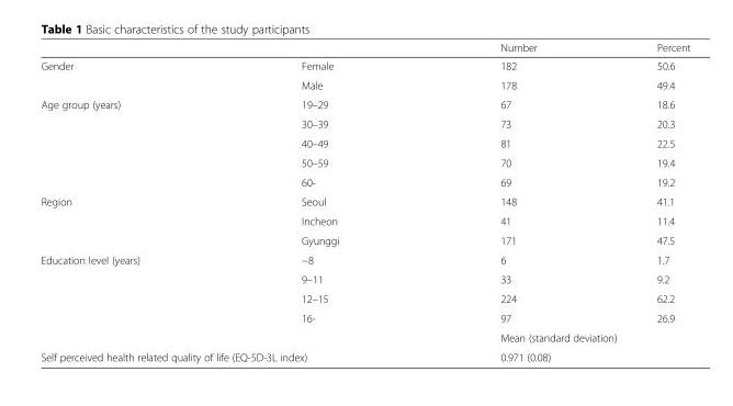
<table><thead><tr><td></td><td></td><td>Number</td><td>Percent</td></tr></thead><tbody><tr><td rowspan="2">Gender</td><td>Female</td><td>182</td><td>50.6</td></tr><tr><td>Male</td><td>178</td><td>49.4</td></tr><tr><td rowspan="5">Age group (years)</td><td>19–29</td><td>67</td><td>18.6</td></tr><tr><td>30–39</td><td>73</td><td>20.3</td></tr><tr><td>40–49</td><td>81</td><td>22.5</td></tr><tr><td>50–59</td><td>70</td><td>19.4</td></tr><tr><td>60-</td><td>69</td><td>19.2</td></tr><tr><td rowspan="3">Region</td><td>Seoul</td><td>148</td><td>41.1</td></tr><tr><td>Incheon</td><td>41</td><td>11.4</td></tr><tr><td>Gyunggi</td><td>171</td><td>47.5</td></tr><tr><td rowspan="5">Education level (years)</td><td>−8</td><td>6</td><td>1.7</td></tr><tr><td>9–11</td><td>33</td><td>9.2</td></tr><tr><td>12–15</td><td>224</td><td>62.2</td></tr><tr><td>16-</td><td>97</td><td>26.9</td></tr><tr><td></td><td colspan="2">Mean (standard deviation)</td></tr><tr><td colspan="2">Self perceived health related quality of life (EQ-5D-3L index)</td><td colspan="2">0.971 (0.08)</td></tr></tbody></table>